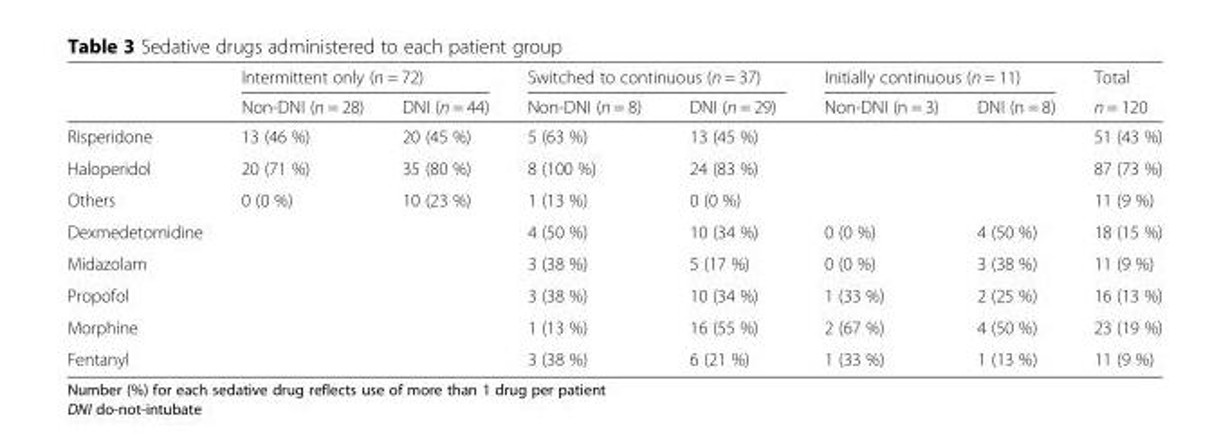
<table><thead><tr><td rowspan="2"></td><td colspan="2">Intermittent only (n = 72)</td><td colspan="2">Switched to continuous (n = 37)</td><td colspan="2">Initially continuous (n = 11)</td><td rowspan="2">Total n = 120</td></tr><tr><td>Non-DNI (n = 28)</td><td>DNI (n = 44)</td><td>Non-DNI (n = 8)</td><td>DNI (n = 29)</td><td>Non-DNI (n = 3)</td><td>DNI (n = 8)</td></tr></thead><tbody><tr><td>Risperidone</td><td>13 (46 %)</td><td>20 (45 %)</td><td>5 (63 %)</td><td>13 (45 %)</td><td></td><td></td><td>51 (43 %)</td></tr><tr><td>Haloperidol</td><td>20 (71 %)</td><td>35 (80 %)</td><td>8 (100 %)</td><td>24 (83 %)</td><td></td><td></td><td>87 (73 %)</td></tr><tr><td>Others</td><td>0 (0 %)</td><td>10 (23 %)</td><td>1 (13 %)</td><td>0 (0 %)</td><td></td><td></td><td>11 (9 %)</td></tr><tr><td>Dexmedetomidine</td><td></td><td></td><td>4 (50 %)</td><td>10 (34 %)</td><td>0 (0 %)</td><td>4 (50 %)</td><td>18 (15 %)</td></tr><tr><td>Midazolam</td><td></td><td></td><td>3 (38 %)</td><td>5 (17 %)</td><td>0 (0 %)</td><td>3 (38 %)</td><td>11 (9 %)</td></tr><tr><td>Propofol</td><td></td><td></td><td>3 (38 %)</td><td>10 (34 %)</td><td>1 (33 %)</td><td>2 (25 %)</td><td>16 (13 %)</td></tr><tr><td>Morphine</td><td></td><td></td><td>1 (13 %)</td><td>16 (55 %)</td><td>2 (67 %)</td><td>4 (50 %)</td><td>23 (19 %)</td></tr><tr><td>Fentanyl</td><td></td><td></td><td>3 (38 %)</td><td>6 (21 %)</td><td>1 (33 %)</td><td>1 (13 %)</td><td>11 (9 %)</td></tr></tbody></table>